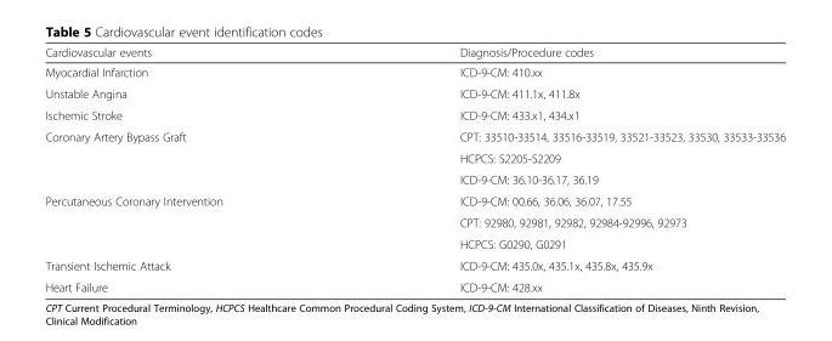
<table><thead><tr><td>Cardiovascular events</td><td>Diagnosis/Procedure codes</td></tr></thead><tbody><tr><td>Myocardial Infarction</td><td>ICD-9-CM: 410.xx</td></tr><tr><td>Unstable Angina</td><td>ICD-9-CM: 411.1x, 411.8x</td></tr><tr><td>Ischemic Stroke</td><td>ICD-9-CM: 433.x1, 434.x1</td></tr><tr><td rowspan="3">Coronary Artery Bypass Graft</td><td>CPT: 33510-33514, 33516-33519, 33521-33523, 33530, 33533-33536</td></tr><tr><td>HCPCS: S2205-S2209</td></tr><tr><td>ICD-9-CM: 36.10-36.17, 36.19</td></tr><tr><td rowspan="3">Percutaneous Coronary Intervention</td><td>ICD-9-CM: 00.66, 36.06, 36.07, 17.55</td></tr><tr><td>CPT: 92980, 92981, 92982, 92984-92996, 92973</td></tr><tr><td>HCPCS: G0290, G0291</td></tr><tr><td>Transient Ischemic Attack</td><td>ICD-9-CM: 435.0x, 435.1x, 435.8x, 435.9x</td></tr><tr><td>Heart Failure</td><td>ICD-9-CM: 428.xx</td></tr></tbody></table>